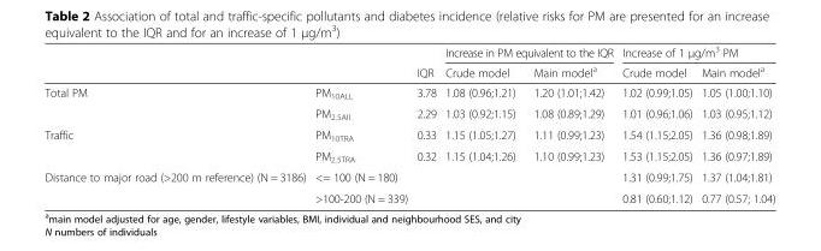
<table><thead><tr><td rowspan="2"></td><td rowspan="2"></td><td rowspan="2">IQR</td><td colspan="2">Increase in PM equivalent to the IQR</td><td colspan="2">Increase of 1 μg/m<sup>3</sup> PM</td></tr><tr><td>Crude model</td><td>Main model<sup>a</sup></td><td>Crude model</td><td>Main model<sup>a</sup></td></tr></thead><tbody><tr><td rowspan="2">Total PM</td><td>PM<sub>10ALL</sub></td><td>3.78</td><td>1.08 (0.96;1.21)</td><td>1.20 (1.01;1.42)</td><td>1.02 (0.99;1.05)</td><td>1.05 (1.00;1.10)</td></tr><tr><td>PM<sub>2.5All</sub></td><td>2.29</td><td>1.03 (0.92;1.15)</td><td>1.08 (0.89;1.29)</td><td>1.01 (0.96;1.06)</td><td>1.03 (0.95;1.12)</td></tr><tr><td rowspan="2">Traffic</td><td>PM<sub>10TRA</sub></td><td>0.33</td><td>1.15 (1.05;1.27)</td><td>1.11 (0.99;1.23)</td><td>1.54 (1.15;2.05)</td><td>1.36 (0.98;1.89)</td></tr><tr><td>PM<sub>2.5TRA</sub></td><td>0.32</td><td>1.15 (1.04;1.26)</td><td>1.10 (0.99;1.23)</td><td>1.53 (1.15;2.05)</td><td>1.36 (0.97;1.89)</td></tr><tr><td rowspan="2">Distance to major road (&gt;200 m reference) (N = 3186)</td><td>&lt;= 100 (N = 180)</td><td></td><td></td><td></td><td>1.31 (0.99;1.75)</td><td>1.37 (1.04;1.81)</td></tr><tr><td>&gt;100-200 (N = 339)</td><td></td><td></td><td></td><td>0.81 (0.60;1.12)</td><td>0.77 (0.57; 1.04)</td></tr></tbody></table>